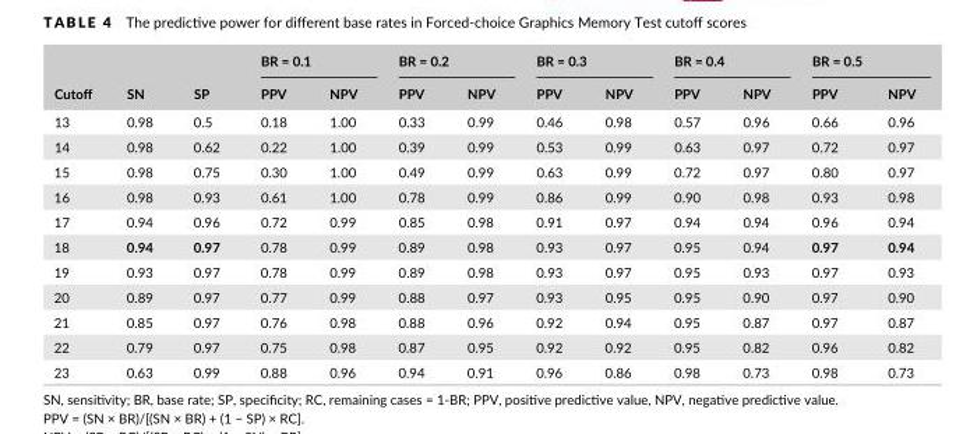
<table><thead><tr><td rowspan="2">Cutoff</td><td rowspan="2">SN</td><td rowspan="2">SP</td><td colspan="2">BR = 0.1</td><td colspan="2">BR = 0.2</td><td colspan="2">BR = 0.3</td><td colspan="2">BR = 0.4</td><td colspan="2">BR = 0.5</td></tr><tr><td>PPV</td><td>NPV</td><td>PPV</td><td>NPV</td><td>PPV</td><td>NPV</td><td>PPV</td><td>NPV</td><td>PPV</td><td>NPV</td></tr></thead><tbody><tr><td>13</td><td>0.98</td><td>0.5</td><td>0.18</td><td>1.00</td><td>0.33</td><td>0.99</td><td>0.46</td><td>0.98</td><td>0.57</td><td>0.96</td><td>0.66</td><td>0.96</td></tr><tr><td>14</td><td>0.98</td><td>0.62</td><td>0.22</td><td>1.00</td><td>0.39</td><td>0.99</td><td>0.53</td><td>0.99</td><td>0.63</td><td>0.97</td><td>0.72</td><td>0.97</td></tr><tr><td>15</td><td>0.98</td><td>0.75</td><td>0.30</td><td>1.00</td><td>0.49</td><td>0.99</td><td>0.63</td><td>0.99</td><td>0.72</td><td>0.97</td><td>0.80</td><td>0.97</td></tr><tr><td>16</td><td>0.98</td><td>0.93</td><td>0.61</td><td>1.00</td><td>0.78</td><td>0.99</td><td>0.86</td><td>0.99</td><td>0.90</td><td>0.98</td><td>0.93</td><td>0.98</td></tr><tr><td>17</td><td>0.94</td><td>0.96</td><td>0.72</td><td>0.99</td><td>0.85</td><td>0.98</td><td>0.91</td><td>0.97</td><td>0.94</td><td>0.94</td><td>0.96</td><td>0.94</td></tr><tr><td>18</td><td>0.94</td><td>0.97</td><td>0.78</td><td>0.99</td><td>0.89</td><td>0.98</td><td>0.93</td><td>0.97</td><td>0.95</td><td>0.94</td><td>0.97</td><td>0.94</td></tr><tr><td>19</td><td>0.93</td><td>0.97</td><td>0.78</td><td>0.99</td><td>0.89</td><td>0.98</td><td>0.93</td><td>0.97</td><td>0.95</td><td>0.93</td><td>0.97</td><td>0.93</td></tr><tr><td>20</td><td>0.89</td><td>0.97</td><td>0.77</td><td>0.99</td><td>0.88</td><td>0.97</td><td>0.93</td><td>0.95</td><td>0.95</td><td>0.90</td><td>0.97</td><td>0.90</td></tr><tr><td>21</td><td>0.85</td><td>0.97</td><td>0.76</td><td>0.98</td><td>0.88</td><td>0.96</td><td>0.92</td><td>0.94</td><td>0.95</td><td>0.87</td><td>0.97</td><td>0.87</td></tr><tr><td>22</td><td>0.79</td><td>0.97</td><td>0.75</td><td>0.98</td><td>0.87</td><td>0.95</td><td>0.92</td><td>0.92</td><td>0.95</td><td>0.82</td><td>0.96</td><td>0.82</td></tr><tr><td>23</td><td>0.63</td><td>0.99</td><td>0.88</td><td>0.96</td><td>0.94</td><td>0.91</td><td>0.96</td><td>0.86</td><td>0.98</td><td>0.73</td><td>0.98</td><td>0.73</td></tr></tbody></table>